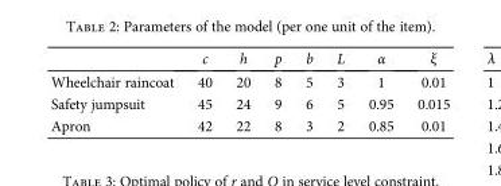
<table><thead><tr><td></td><td>c</td><td>h</td><td>p</td><td>b</td><td>L</td><td>α</td><td>ξ</td></tr></thead><tbody><tr><td>Wheelchair raincoat</td><td>40</td><td>20</td><td>8</td><td>5</td><td>3</td><td>1</td><td>0.01</td></tr><tr><td>Safety jumpsuit</td><td>45</td><td>24</td><td>9</td><td>6</td><td>5</td><td>0.95</td><td>0.015</td></tr><tr><td>Apron</td><td>42</td><td>22</td><td>8</td><td>3</td><td>2</td><td>0.85</td><td>0.01</td></tr></tbody></table>